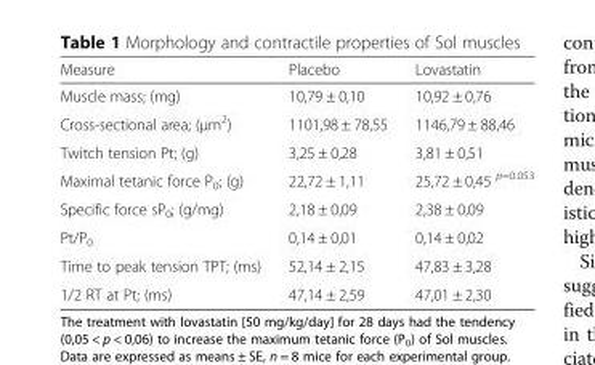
<table><thead><tr><td>Measure</td><td>Placebo</td><td>Lovastatin</td></tr></thead><tbody><tr><td>Muscle mass; (mg)</td><td>10,79 ± 0,10</td><td>10,92 ± 0,76</td></tr><tr><td>Cross-sectional area; (μm<sup>2</sup>)</td><td>1101,98 ± 78,55</td><td>1146,79 ± 88,46</td></tr><tr><td>Twitch tension Pt; (g)</td><td>3,25 ± 0,28</td><td>3,81 ± 0,51</td></tr><tr><td>Maximal tetanic force P<sub>0</sub>; (g)</td><td>22,72 ± 1,11</td><td>25,72 ± 0,45 <sup>p=0.053</sup></td></tr><tr><td>Specific force sP<sub>0</sub>; (g/mg)</td><td>2,18 ± 0,09</td><td>2,38 ± 0,09</td></tr><tr><td>Pt/P<sub>0</sub></td><td>0,14 ± 0,01</td><td>0,14 ± 0,02</td></tr><tr><td>Time to peak tension TPT; (ms)</td><td>52,14 ± 2,15</td><td>47,83 ± 3,28</td></tr><tr><td>1/2 RT at Pt; (ms)</td><td>47,14 ± 2,59</td><td>47,01 ± 2,30</td></tr></tbody></table>